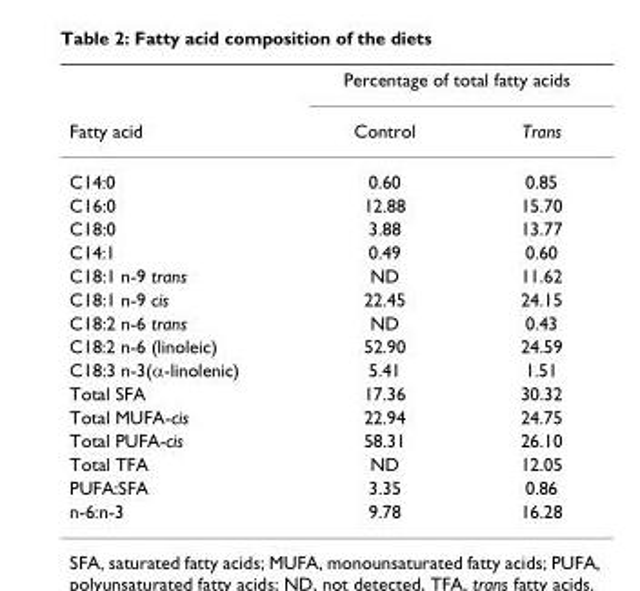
<table><thead><tr><td rowspan="2">Fatty acid</td><td colspan="2">Percentage of total fatty acids</td></tr><tr><td>Control</td><td>Trans</td></tr></thead><tbody><tr><td>C14:0</td><td>0.60</td><td>0.85</td></tr><tr><td>C16:0</td><td>12.88</td><td>15.70</td></tr><tr><td>C18:0</td><td>3.88</td><td>13.77</td></tr><tr><td>C14:1</td><td>0.49</td><td>0.60</td></tr><tr><td>C18:1 n-9 trans</td><td>ND</td><td>11.62</td></tr><tr><td>C18:1 n-9 cis</td><td>22.45</td><td>24.15</td></tr><tr><td>C18:2 n-6 trans</td><td>ND</td><td>0.43</td></tr><tr><td>C18:2 n-6 (linoleic)</td><td>52.90</td><td>24.59</td></tr><tr><td>C18:3 n-3(α-linolenic)</td><td>5.41</td><td>1.51</td></tr><tr><td>Total SFA</td><td>17.36</td><td>30.32</td></tr><tr><td>Total MUFA-cis</td><td>22.94</td><td>24.75</td></tr><tr><td>Total PUFA-cis</td><td>58.31</td><td>26.10</td></tr><tr><td>Total TFA</td><td>ND</td><td>12.05</td></tr><tr><td>PUFA:SFA</td><td>3.35</td><td>0.86</td></tr><tr><td>n-6:n-3</td><td>9.78</td><td>16.28</td></tr></tbody></table>